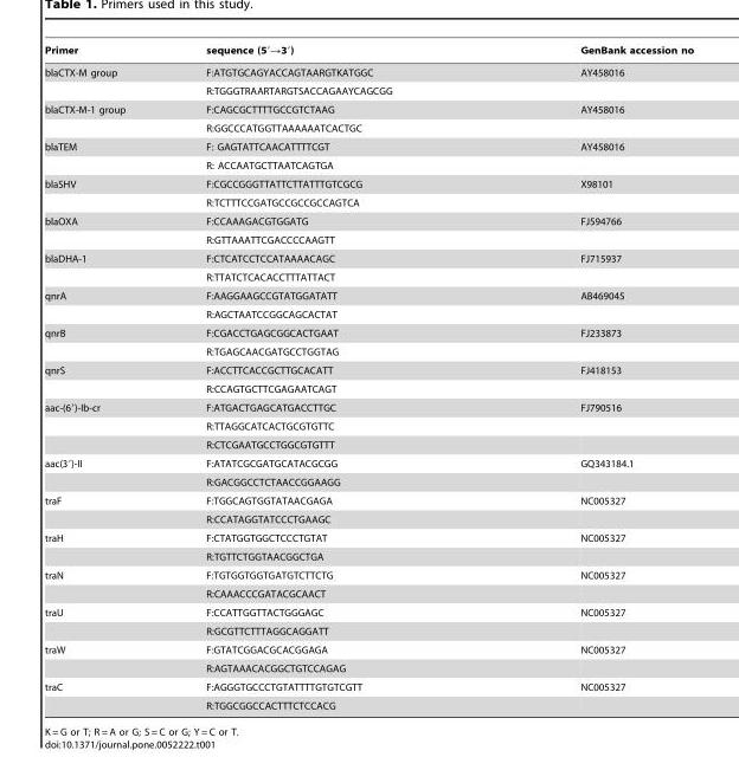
<table><thead><tr><td>Primer</td><td>sequence (5′→3′)</td><td>GenBank accession no</td></tr></thead><tbody><tr><td rowspan="2">blaCTX-M group</td><td>F:ATGTGCAGYACCAGTAARGTKATGGC</td><td>AY458016</td></tr><tr><td>R:TGGGTRAARTARGTSACCAGAAYCAGCGG</td><td></td></tr><tr><td rowspan="2">blaCTX-M-1 group</td><td>F:CAGCGCTTTTGCCGTCTAAG</td><td>AY458016</td></tr><tr><td>R:GGCCCATGGTTAAAAAATCACTGC</td><td></td></tr><tr><td rowspan="2">blaTEM</td><td>F: GAGTATTCAACATTTTCGT</td><td>AY458016</td></tr><tr><td>R: ACCAATGCTTAATCAGTGA</td><td></td></tr><tr><td rowspan="2">blaSHV</td><td>F:CGCCGGGTTATTCTTATTTGTCGCG</td><td>X98101</td></tr><tr><td>R:TCTTTCCGATGCCGCCGCCAGTCA</td><td></td></tr><tr><td rowspan="2">blaOXA</td><td>F:CCAAAGACGTGGATG</td><td>FJ594766</td></tr><tr><td>R:GTTAAATTCGACCCCAAGTT</td><td></td></tr><tr><td rowspan="2">blaDHA-1</td><td>F:CTCATCCTCCATAAAACAGC</td><td>FJ715937</td></tr><tr><td>R:TTATCTCACACCTTTATTACT</td><td></td></tr><tr><td rowspan="2">qnrA</td><td>F:AAGGAAGCCGTATGGATATT</td><td>AB469045</td></tr><tr><td>R:AGCTAATCCGGCAGCACTAT</td><td></td></tr><tr><td rowspan="2">qnrB</td><td>F:CGACCTGAGCGGCACTGAAT</td><td>FJ233873</td></tr><tr><td>R:TGAGCAACGATGCCTGGTAG</td><td></td></tr><tr><td rowspan="2">qnrS</td><td>F:ACCTTCACCGCTTGCACATT</td><td>FJ418153</td></tr><tr><td>R:CCAGTGCTTCGAGAATCAGT</td><td></td></tr><tr><td rowspan="3">aac-(6′)-Ib-cr</td><td>F:ATGACTGAGCATGACCTTGC</td><td>FJ790516</td></tr><tr><td>R:TTAGGCATCACTGCGTGTTC</td><td></td></tr><tr><td>R:CTCGAATGCCTGGCGTGTTT</td><td></td></tr><tr><td rowspan="2">aac(3′)-II</td><td>F:ATATCGCGATGCATACGCGG</td><td>GQ343184.1</td></tr><tr><td>R:GACGGCCTCTAACCGGAAGG</td><td></td></tr><tr><td rowspan="2">traF</td><td>F:TGGCAGTGGTATAACGAGA</td><td>NC005327</td></tr><tr><td>R:CCATAGGTATCCCTGAAGC</td><td></td></tr><tr><td rowspan="2">traH</td><td>F:CTATGGTGGCTCCCTGTAT</td><td>NC005327</td></tr><tr><td>R:TGTTCTGGTAACGGCTGA</td><td></td></tr><tr><td rowspan="2">traN</td><td>F:TGTGGTGGTGATGTCTTCTG</td><td>NC005327</td></tr><tr><td>R:CAAACCCGATACGCAACT</td><td></td></tr><tr><td rowspan="2">traU</td><td>F:CCATTGGTTACTGGGAGC</td><td>NC005327</td></tr><tr><td>R:GCGTTCTTTAGGCAGGATT</td><td></td></tr><tr><td rowspan="2">traW</td><td>F:GTATCGGACGCACGGAGA</td><td>NC005327</td></tr><tr><td>R:AGTAAACACGGCTGTCCAGAG</td><td></td></tr><tr><td rowspan="2">traC</td><td>F:AGGGTGCCCTGTATTTTGTGTCGTT</td><td>NC005327</td></tr><tr><td>R:TGGCGGCCACTTTCTCCACG</td><td></td></tr></tbody></table>